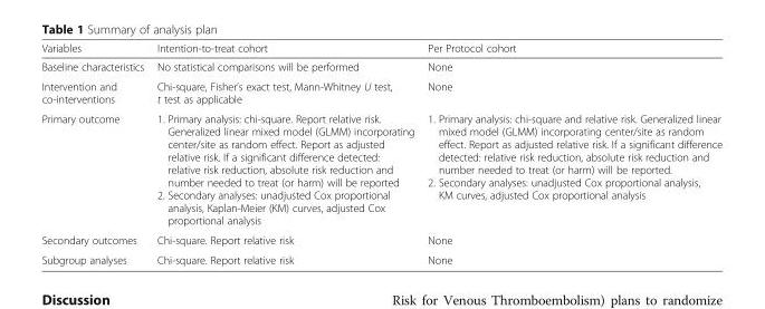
<table><thead><tr><td>Variables</td><td>Intention-to-treat cohort</td><td>Per Protocol cohort</td></tr></thead><tbody><tr><td>Baseline characteristics</td><td>No statistical comparisons will be performed</td><td>None</td></tr><tr><td>Intervention and co-interventions</td><td>Chi-square, Fisher’s exact test, Mann-Whitney U test, t test as applicable</td><td>None</td></tr><tr><td>Primary outcome</td><td>1. Primary analysis: chi-square. Report relative risk. Generalized linear mixed model (GLMM) incorporating center/site as random effect. Report as adjusted relative risk. If a significant difference detected: relative risk reduction, absolute risk reduction and number needed to treat (or harm) will be reported 2. Secondary analyses: unadjusted Cox proportional analysis, Kaplan-Meier (KM) curves, adjusted Cox proportional analysis</td><td>1. Primary analysis: chi-square and relative risk. Generalized linear mixed model (GLMM) incorporating center/site as random effect. Report as adjusted relative risk. If a significant difference detected: relative risk reduction, absolute risk reduction and number needed to treat (or harm) will be reported. 2. Secondary analyses: unadjusted Cox proportional analysis, KM curves, adjusted Cox proportional analysis</td></tr><tr><td>Secondary outcomes</td><td>Chi-square. Report relative risk</td><td>None</td></tr><tr><td>Subgroup analyses</td><td>Chi-square. Report relative risk</td><td>None</td></tr></tbody></table>